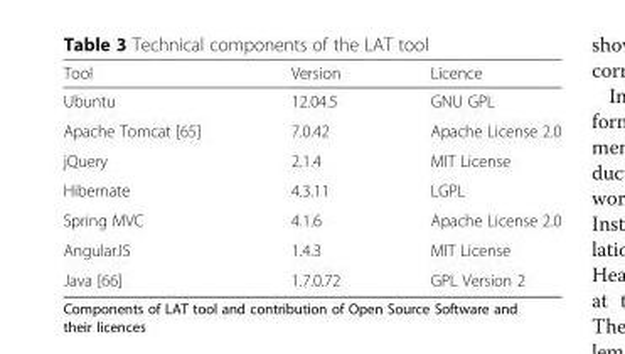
<table><thead><tr><td>Tool</td><td>Version</td><td>Licence</td></tr></thead><tbody><tr><td>Ubuntu</td><td>12.04.5</td><td>GNU GPL</td></tr><tr><td>Apache Tomcat [65]</td><td>7.0.42</td><td>Apache License 2.0</td></tr><tr><td>jQuery</td><td>2.1.4</td><td>MIT License</td></tr><tr><td>Hibernate</td><td>4.3.11</td><td>LGPL</td></tr><tr><td>Spring MVC</td><td>4.1.6</td><td>Apache License 2.0</td></tr><tr><td>AngularJS</td><td>1.4.3</td><td>MIT License</td></tr><tr><td>Java [66]</td><td>1.7.0.72</td><td>GPL Version 2</td></tr></tbody></table>